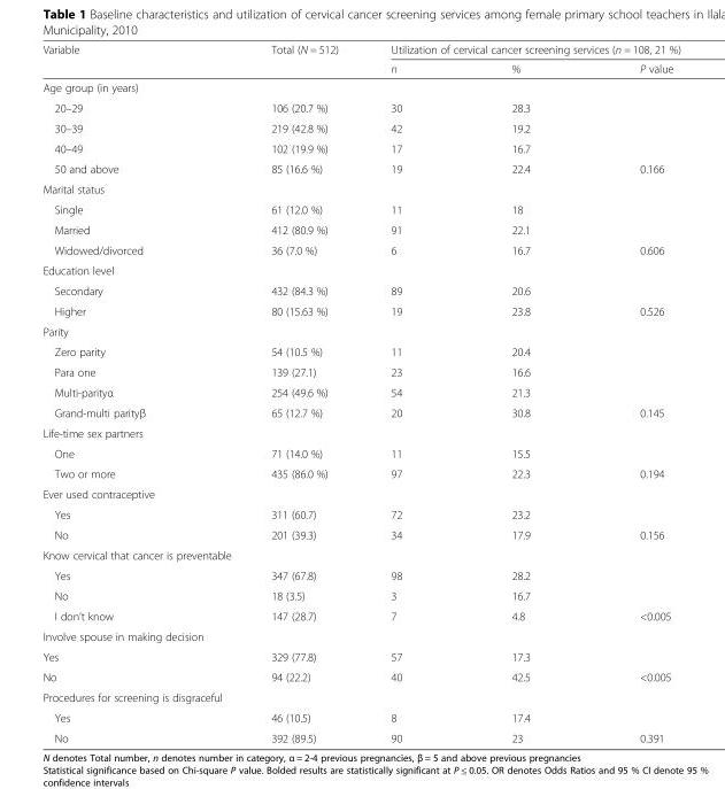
<table><thead><tr><td rowspan="2">Variable</td><td rowspan="2">Total (N = 512)</td><td colspan="3">Utilization of cervical cancer screening services (n = 108, 21 %)</td></tr><tr><td>n</td><td>%</td><td>P value</td></tr></thead><tbody><tr><td colspan="5">Age group (in years)</td></tr><tr><td>20–29</td><td>106 (20.7 %)</td><td>30</td><td>28.3</td><td></td></tr><tr><td>30–39</td><td>219 (42.8 %)</td><td>42</td><td>19.2</td><td></td></tr><tr><td>40–49</td><td>102 (19.9 %)</td><td>17</td><td>16.7</td><td></td></tr><tr><td>50 and above</td><td>85 (16.6 %)</td><td>19</td><td>22.4</td><td>0.166</td></tr><tr><td colspan="5">Marital status</td></tr><tr><td>Single</td><td>61 (12.0 %)</td><td>11</td><td>18</td><td></td></tr><tr><td>Married</td><td>412 (80.9 %)</td><td>91</td><td>22.1</td><td></td></tr><tr><td>Widowed/divorced</td><td>36 (7.0 %)</td><td>6</td><td>16.7</td><td>0.606</td></tr><tr><td colspan="5">Education level</td></tr><tr><td>Secondary</td><td>432 (84.3 %)</td><td>89</td><td>20.6</td><td></td></tr><tr><td>Higher</td><td>80 (15.63 %)</td><td>19</td><td>23.8</td><td>0.526</td></tr><tr><td colspan="5">Parity</td></tr><tr><td>Zero parity</td><td>54 (10.5 %)</td><td>11</td><td>20.4</td><td></td></tr><tr><td>Para one</td><td>139 (27.1)</td><td>23</td><td>16.6</td><td></td></tr><tr><td>Multi-parityα</td><td>254 (49.6 %)</td><td>54</td><td>21.3</td><td></td></tr><tr><td>Grand-multi parityβ</td><td>65 (12.7 %)</td><td>20</td><td>30.8</td><td>0.145</td></tr><tr><td colspan="5">Life-time sex partners</td></tr><tr><td>One</td><td>71 (14.0 %)</td><td>11</td><td>15.5</td><td></td></tr><tr><td>Two or more</td><td>435 (86.0 %)</td><td>97</td><td>22.3</td><td>0.194</td></tr><tr><td colspan="5">Ever used contraceptive</td></tr><tr><td>Yes</td><td>311 (60.7)</td><td>72</td><td>23.2</td><td></td></tr><tr><td>No</td><td>201 (39.3)</td><td>34</td><td>17.9</td><td>0.156</td></tr><tr><td colspan="5">Know cervical that cancer is preventable</td></tr><tr><td>Yes</td><td>347 (67.8)</td><td>98</td><td>28.2</td><td></td></tr><tr><td>No</td><td>18 (3.5)</td><td>3</td><td>16.7</td><td></td></tr><tr><td>I don’t know</td><td>147 (28.7)</td><td>7</td><td>4.8</td><td>&lt;0.005</td></tr><tr><td colspan="5">Involve spouse in making decision</td></tr><tr><td>Yes</td><td>329 (77.8)</td><td>57</td><td>17.3</td><td></td></tr><tr><td>No</td><td>94 (22.2)</td><td>40</td><td>42.5</td><td>&lt;0.005</td></tr><tr><td colspan="5">Procedures for screening is disgraceful</td></tr><tr><td>Yes</td><td>46 (10.5)</td><td>8</td><td>17.4</td><td></td></tr><tr><td>No</td><td>392 (89.5)</td><td>90</td><td>23</td><td>0.391</td></tr></tbody></table>